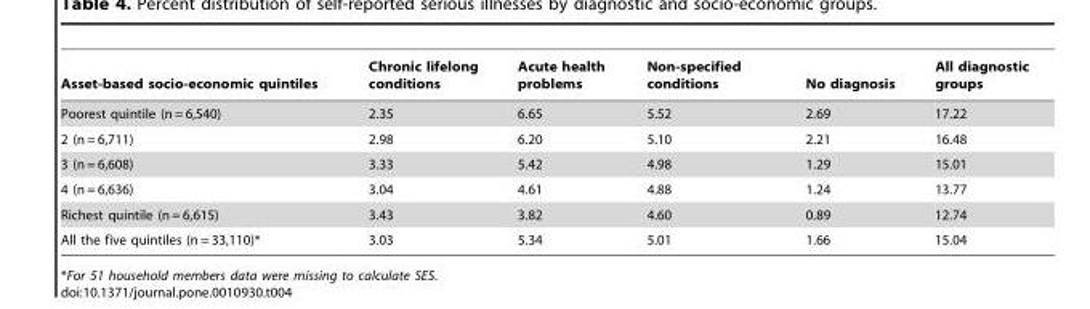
<table><thead><tr><td>Asset-based socio-economic quintiles</td><td>Chronic lifelong conditions</td><td>Acute health problems</td><td>Non-specified conditions</td><td>No diagnosis</td><td>All diagnostic groups</td></tr></thead><tbody><tr><td>Poorest quintile (n = 6,540)</td><td>2.35</td><td>6.65</td><td>5.52</td><td>2.69</td><td>17.22</td></tr><tr><td>2 (n = 6,711)</td><td>2.98</td><td>6.20</td><td>5.10</td><td>2.21</td><td>16.48</td></tr><tr><td>3 (n = 6,608)</td><td>3.33</td><td>5.42</td><td>4.98</td><td>1.29</td><td>15.01</td></tr><tr><td>4 (n = 6,636)</td><td>3.04</td><td>4.61</td><td>4.88</td><td>1.24</td><td>13.77</td></tr><tr><td>Richest quintile (n = 6,615)</td><td>3.43</td><td>3.82</td><td>4.60</td><td>0.89</td><td>12.74</td></tr><tr><td>All the five quintiles (n = 33,110)*</td><td>3.03</td><td>5.34</td><td>5.01</td><td>1.66</td><td>15.04</td></tr></tbody></table>